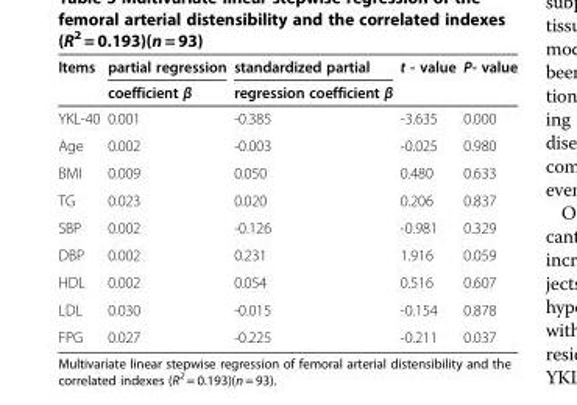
<table><thead><tr><td>Items</td><td>partial regression</td><td>standardized partial</td><td>t - value</td><td>P- value</td></tr></thead><tbody><tr><td></td><td>coefficient β</td><td>regression coefficient β</td><td></td><td></td></tr><tr><td>YKL-40</td><td>0.001</td><td>-0.385</td><td>-3.635</td><td>0.000</td></tr><tr><td>Age</td><td>0.002</td><td>-0.003</td><td>-0.025</td><td>0.980</td></tr><tr><td>BMI</td><td>0.009</td><td>0.050</td><td>0.480</td><td>0.633</td></tr><tr><td>TG</td><td>0.023</td><td>0.020</td><td>0.206</td><td>0.837</td></tr><tr><td>SBP</td><td>0.002</td><td>-0.126</td><td>-0.981</td><td>0.329</td></tr><tr><td>DBP</td><td>0.002</td><td>0.231</td><td>1.916</td><td>0.059</td></tr><tr><td>HDL</td><td>0.002</td><td>0.054</td><td>0.516</td><td>0.607</td></tr><tr><td>LDL</td><td>0.030</td><td>-0.015</td><td>-0.154</td><td>0.878</td></tr><tr><td>FPG</td><td>0.027</td><td>-0.225</td><td>-0.211</td><td>0.037</td></tr></tbody></table>